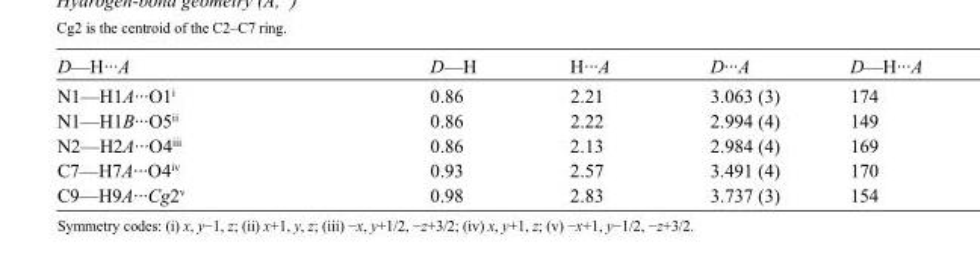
<table><tbody><tr><td>D—H···A</td><td>D—H</td><td>H···A</td><td>D···A</td><td>D—H···A</td></tr><tr><td>N1—H1A···O1<sup>i</sup></td><td>0.86</td><td>2.21</td><td>3.063 (3)</td><td>174</td></tr><tr><td>N1—H1B···O5<sup>ii</sup></td><td>0.86</td><td>2.22</td><td>2.994 (4)</td><td>149</td></tr><tr><td>N2—H2A···O4<sup>iii</sup></td><td>0.86</td><td>2.13</td><td>2.984 (4)</td><td>169</td></tr><tr><td>C7—H7A···O4<sup>iv</sup></td><td>0.93</td><td>2.57</td><td>3.491 (4)</td><td>170</td></tr><tr><td>C9—H9A···Cg2<sup>v</sup></td><td>0.98</td><td>2.83</td><td>3.737 (3)</td><td>154</td></tr></tbody></table>